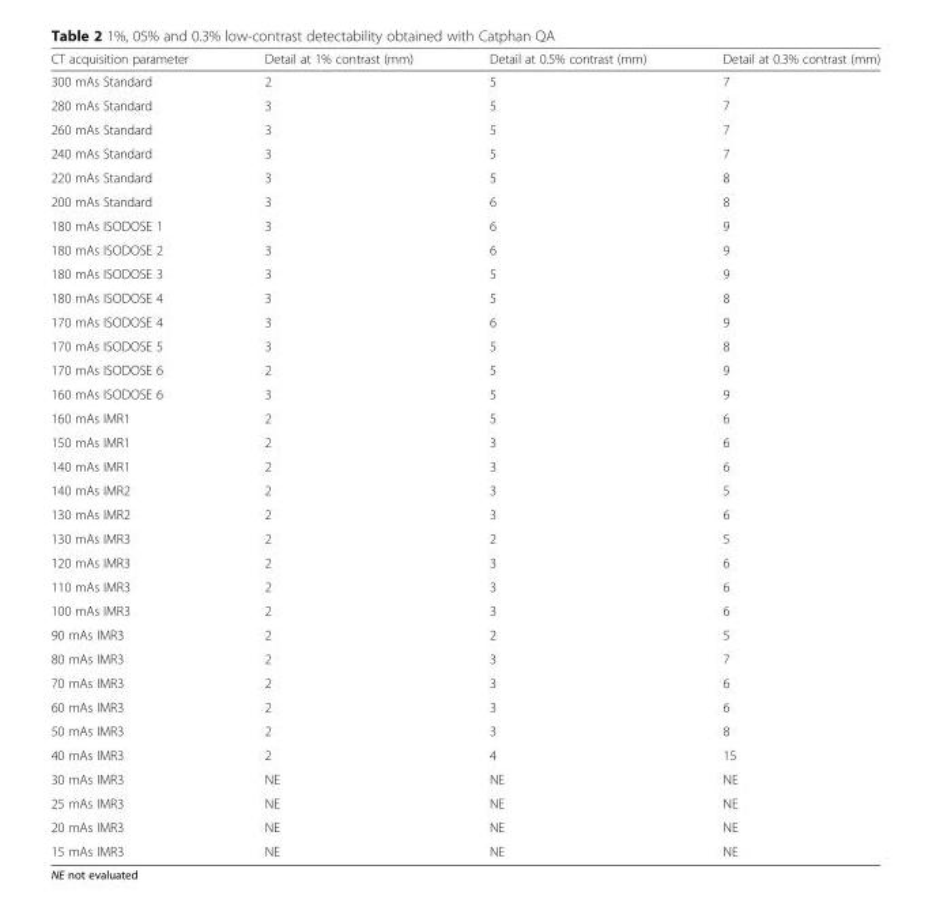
<table><thead><tr><td>CT acquisition parameter</td><td>Detail at 1% contrast (mm)</td><td>Detail at 0.5% contrast (mm)</td><td>Detail at 0.3% contrast (mm)</td></tr></thead><tbody><tr><td>300 mAs Standard</td><td>2</td><td>5</td><td>7</td></tr><tr><td>280 mAs Standard</td><td>3</td><td>5</td><td>7</td></tr><tr><td>260 mAs Standard</td><td>3</td><td>5</td><td>7</td></tr><tr><td>240 mAs Standard</td><td>3</td><td>5</td><td>7</td></tr><tr><td>220 mAs Standard</td><td>3</td><td>5</td><td>8</td></tr><tr><td>200 mAs Standard</td><td>3</td><td>6</td><td>8</td></tr><tr><td>180 mAs ISODOSE 1</td><td>3</td><td>6</td><td>9</td></tr><tr><td>180 mAs ISODOSE 2</td><td>3</td><td>6</td><td>9</td></tr><tr><td>180 mAs ISODOSE 3</td><td>3</td><td>5</td><td>9</td></tr><tr><td>180 mAs ISODOSE 4</td><td>3</td><td>5</td><td>8</td></tr><tr><td>170 mAs ISODOSE 4</td><td>3</td><td>6</td><td>9</td></tr><tr><td>170 mAs ISODOSE 5</td><td>3</td><td>5</td><td>8</td></tr><tr><td>170 mAs ISODOSE 6</td><td>2</td><td>5</td><td>9</td></tr><tr><td>160 mAs ISODOSE 6</td><td>3</td><td>5</td><td>9</td></tr><tr><td>160 mAs IMR1</td><td>2</td><td>5</td><td>6</td></tr><tr><td>150 mAs IMR1</td><td>2</td><td>3</td><td>6</td></tr><tr><td>140 mAs IMR1</td><td>2</td><td>3</td><td>6</td></tr><tr><td>140 mAs IMR2</td><td>2</td><td>3</td><td>5</td></tr><tr><td>130 mAs IMR2</td><td>2</td><td>3</td><td>6</td></tr><tr><td>130 mAs IMR3</td><td>2</td><td>2</td><td>5</td></tr><tr><td>120 mAs IMR3</td><td>2</td><td>3</td><td>6</td></tr><tr><td>110 mAs IMR3</td><td>2</td><td>3</td><td>6</td></tr><tr><td>100 mAs IMR3</td><td>2</td><td>3</td><td>6</td></tr><tr><td>90 mAs IMR3</td><td>2</td><td>2</td><td>5</td></tr><tr><td>80 mAs IMR3</td><td>2</td><td>3</td><td>7</td></tr><tr><td>70 mAs IMR3</td><td>2</td><td>3</td><td>6</td></tr><tr><td>60 mAs IMR3</td><td>2</td><td>3</td><td>6</td></tr><tr><td>50 mAs IMR3</td><td>2</td><td>3</td><td>8</td></tr><tr><td>40 mAs IMR3</td><td>2</td><td>4</td><td>15</td></tr><tr><td>30 mAs IMR3</td><td>NE</td><td>NE</td><td>NE</td></tr><tr><td>25 mAs IMR3</td><td>NE</td><td>NE</td><td>NE</td></tr><tr><td>20 mAs IMR3</td><td>NE</td><td>NE</td><td>NE</td></tr><tr><td>15 mAs IMR3</td><td>NE</td><td>NE</td><td>NE</td></tr></tbody></table>